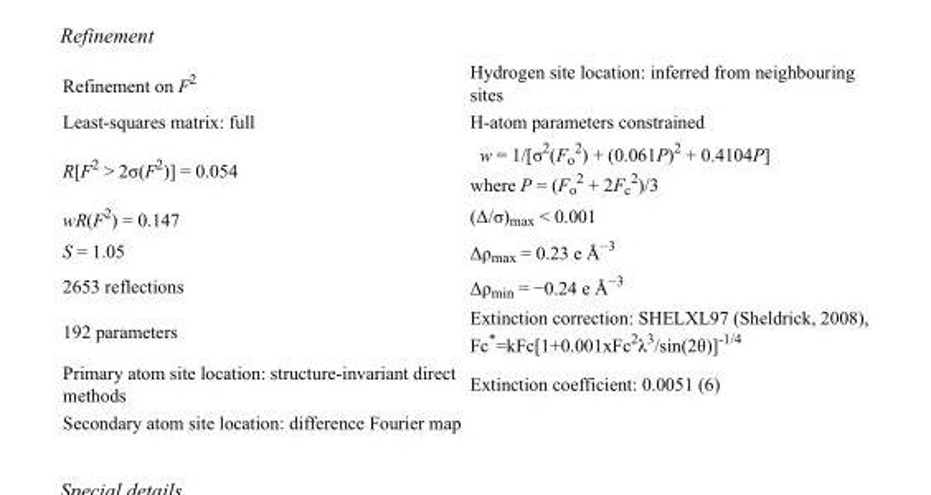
<table><tbody><tr><td>Refinement on F<sup>2</sup></td><td>Hydrogen site location: inferred from neighbouring sites</td></tr><tr><td>Least-squares matrix: full</td><td>H-atom parameters constrained</td></tr><tr><td>R[F<sup>2</sup> &gt; 2σ(F<sup>2</sup>)] = 0.054</td><td>w = 1/[σ<sup>2</sup>(F<sub>o</sub> <sup>2</sup>) + (0.061P)<sup>2</sup> + 0.4104P] where P = (F<sub>o</sub> <sup>2</sup> + 2F<sub>c</sub> <sup>2</sup>)/3</td></tr><tr><td>wR(F<sup>2</sup>) = 0.147</td><td>(Δ/σ)<sub>max</sub> &lt; 0.001</td></tr><tr><td>S = 1.05</td><td>Δρ<sub>max</sub> = 0.23 e Å<sup>−3</sup></td></tr><tr><td>2653 reflections</td><td>Δρ<sub>min</sub> = −0.24 e Å<sup>−3</sup></td></tr><tr><td>192 parameters</td><td>Extinction correction: SHELXL97 (Sheldrick, 2008), Fc*=kFc[1+0.001xFc<sup>2</sup>λ<sup>3</sup>/sin(2θ)]<sup>-1/4</sup></td></tr><tr><td>Primary atom site location: structure-invariant direct methods</td><td>Extinction coefficient: 0.0051 (6)</td></tr><tr><td>Secondary atom site location: difference Fourier map</td><td></td></tr></tbody></table>